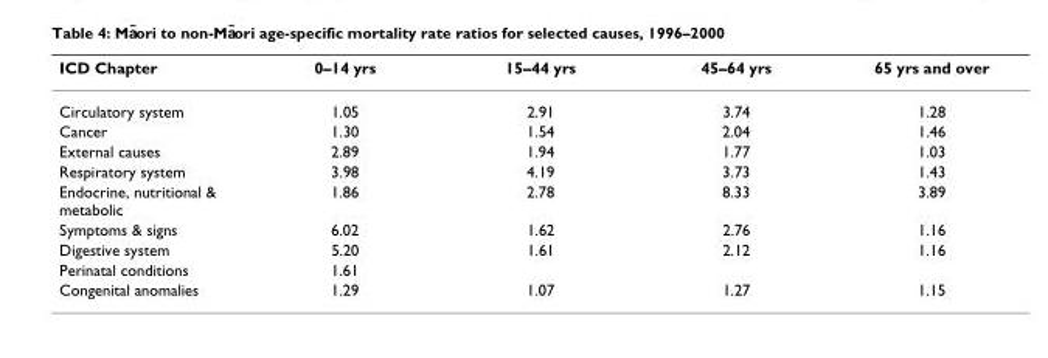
<table><thead><tr><td>ICD Chapter</td><td>0–14 yrs</td><td>15–44 yrs</td><td>45–64 yrs</td><td>65 yrs and over</td></tr></thead><tbody><tr><td>Circulatory system</td><td>1.05</td><td>2.91</td><td>3.74</td><td>1.28</td></tr><tr><td>Cancer</td><td>1.30</td><td>1.54</td><td>2.04</td><td>1.46</td></tr><tr><td>External causes</td><td>2.89</td><td>1.94</td><td>1.77</td><td>1.03</td></tr><tr><td>Respiratory system</td><td>3.98</td><td>4.19</td><td>3.73</td><td>1.43</td></tr><tr><td>Endocrine, nutritional &amp; metabolic</td><td>1.86</td><td>2.78</td><td>8.33</td><td>3.89</td></tr><tr><td>Symptoms &amp; signs</td><td>6.02</td><td>1.62</td><td>2.76</td><td>1.16</td></tr><tr><td>Digestive system</td><td>5.20</td><td>1.61</td><td>2.12</td><td>1.16</td></tr><tr><td>Perinatal conditions</td><td>1.61</td><td></td><td></td><td></td></tr><tr><td>Congenital anomalies</td><td>1.29</td><td>1.07</td><td>1.27</td><td>1.15</td></tr></tbody></table>